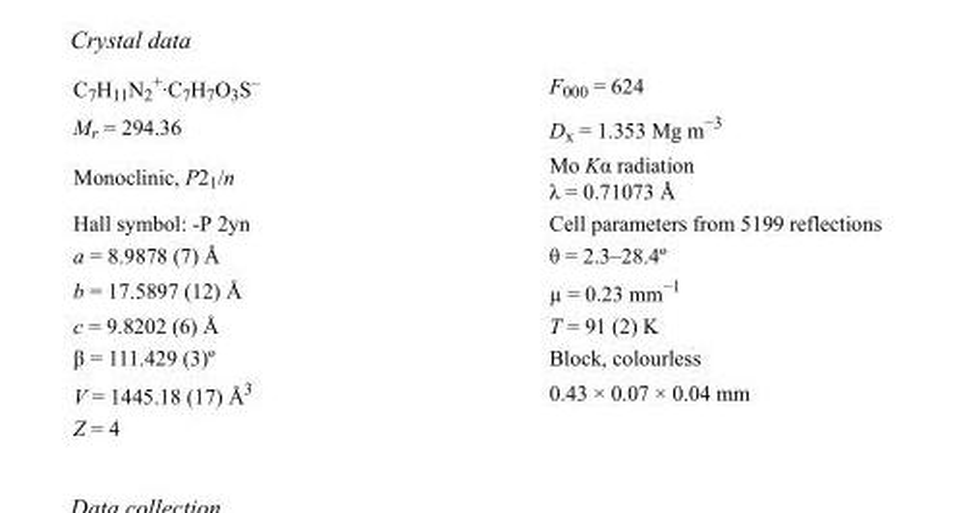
<table><tbody><tr><td>C<sub>7</sub>H<sub>11</sub>N<sub>2</sub> <sup>+</sup>·C<sub>7</sub>H<sub>7</sub>O<sub>3</sub>S<sup>–</sup></td><td>F<sub>000</sub> = 624</td></tr><tr><td>M<sub>r</sub> = 294.36</td><td>D<sub>x</sub> = 1.353 Mg m<sup>−3</sup></td></tr><tr><td>Monoclinic, P2<sub>1</sub>/n</td><td>Mo Kα radiation λ = 0.71073 Å</td></tr><tr><td>Hall symbol: -P 2yn</td><td>Cell parameters from 5199 reflections</td></tr><tr><td>a = 8.9878 (7) Å</td><td>θ = 2.3–28.4º</td></tr><tr><td>b = 17.5897 (12) Å</td><td>µ = 0.23 mm<sup>−1</sup></td></tr><tr><td>c = 9.8202 (6) Å</td><td>T = 91 (2) K</td></tr><tr><td>β = 111.429 (3)º</td><td>Block, colourless</td></tr><tr><td>V = 1445.18 (17) Å<sup>3</sup></td><td>0.43 × 0.07 × 0.04 mm</td></tr><tr><td>Z = 4</td><td></td></tr></tbody></table>